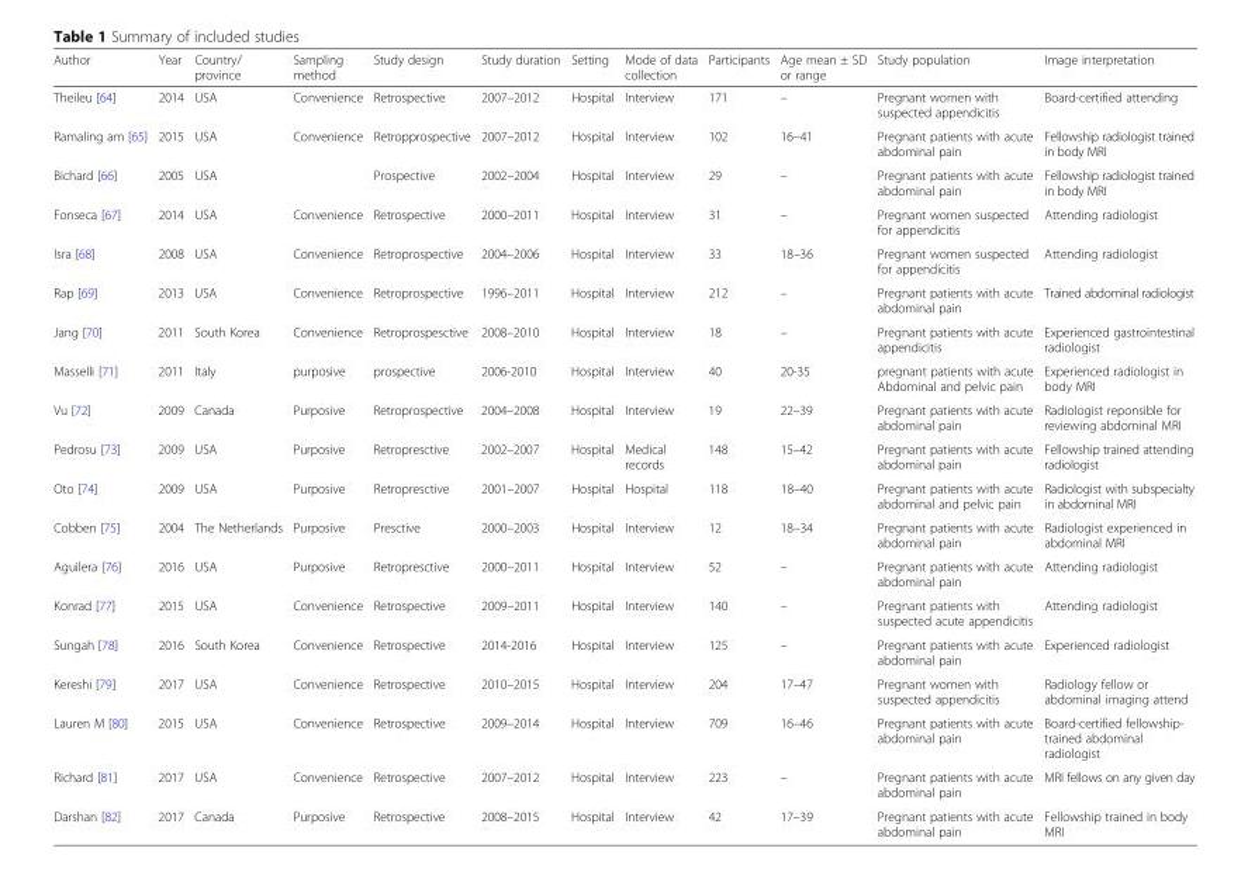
<table><thead><tr><td>Author</td><td>Year</td><td>Country/ province</td><td>Sampling method</td><td>Study design</td><td>Study duration</td><td>Setting</td><td>Mode of data collection</td><td>Participants</td><td>Age mean ± SD or range</td><td>Study population</td><td>Image interpretation</td></tr></thead><tbody><tr><td>Theileu [64]</td><td>2014</td><td>USA</td><td>Convenience</td><td>Retrospective</td><td>2007–2012</td><td>Hospital</td><td>Interview</td><td>171</td><td>–</td><td>Pregnant women with suspected appendicitis</td><td>Board-certified attending</td></tr><tr><td>Ramaling am [65]</td><td>2015</td><td>USA</td><td>Convenience</td><td>Retropprospective</td><td>2007–2012</td><td>Hospital</td><td>Interview</td><td>102</td><td>16–41</td><td>Pregnant patients with acute abdominal pain</td><td>Fellowship radiologist trained in body MRI</td></tr><tr><td>Bichard [66]</td><td>2005</td><td>USA</td><td></td><td>Prospective</td><td>2002–2004</td><td>Hospital</td><td>Interview</td><td>29</td><td>–</td><td>Pregnant patients with acute abdominal pain</td><td>Fellowship radiologist trained in body MRI</td></tr><tr><td>Fonseca [67]</td><td>2014</td><td>USA</td><td>Convenience</td><td>Retrospective</td><td>2000–2011</td><td>Hospital</td><td>Interview</td><td>31</td><td>–</td><td>Pregnant women suspected for appendicitis</td><td>Attending radiologist</td></tr><tr><td>Isra [68]</td><td>2008</td><td>USA</td><td>Convenience</td><td>Retroprospective</td><td>2004–2006</td><td>Hospital</td><td>Interview</td><td>33</td><td>18–36</td><td>Pregnant women suspected for appendicitis</td><td>Attending radiologist</td></tr><tr><td>Rap [69]</td><td>2013</td><td>USA</td><td>Convenience</td><td>Retroprospective</td><td>1996–2011</td><td>Hospital</td><td>Interview</td><td>212</td><td>–</td><td>Pregnant patients with acute abdominal pain</td><td>Trained abdominal radiologist</td></tr><tr><td>Jang [70]</td><td>2011</td><td>South Korea</td><td>Convenience</td><td>Retroprospesctive</td><td>2008–2010</td><td>Hospital</td><td>Interview</td><td>18</td><td>–</td><td>Pregnant patients with acute appendicitis</td><td>Experienced gastrointestinal radiologist</td></tr><tr><td>Masselli [71]</td><td>2011</td><td>Italy</td><td>purposive</td><td>prospective</td><td>2006-2010</td><td>Hospital</td><td>Interview</td><td>40</td><td>20-35</td><td>pregnant patients with acute Abdominal and pelvic pain</td><td>Experienced radiologist in body MRI</td></tr><tr><td>Vu [72]</td><td>2009</td><td>Canada</td><td>Purposive</td><td>Retroprospective</td><td>2004–2008</td><td>Hospital</td><td>Interview</td><td>19</td><td>22–39</td><td>Pregnant patients with acute abdominal pain</td><td>Radiologist reponsible for reviewing abdominal MRI</td></tr><tr><td>Pedrosu [73]</td><td>2009</td><td>USA</td><td>Purposive</td><td>Retropresctive</td><td>2002–2007</td><td>Hospital</td><td>Medical records</td><td>148</td><td>15–42</td><td>Pregnant patients with acute abdominal pain</td><td>Fellowship trained attending radiologist</td></tr><tr><td>Oto [74]</td><td>2009</td><td>USA</td><td>Purposive</td><td>Retropresctive</td><td>2001–2007</td><td>Hospital</td><td>Hospital</td><td>118</td><td>18–40</td><td>Pregnant patients with acute abdominal and pelvic pain</td><td>Radiologist with subspecialty in abdominal MRI</td></tr><tr><td>Cobben [75]</td><td>2004</td><td>The Netherlands</td><td>Purposive</td><td>Presctive</td><td>2000–2003</td><td>Hospital</td><td>Interview</td><td>12</td><td>18–34</td><td>Pregnant patients with acute abdominal pain</td><td>Radiologist experienced in abdominal MRI</td></tr><tr><td>Aguilera [76]</td><td>2016</td><td>USA</td><td>Purposive</td><td>Retropresctive</td><td>2000–2011</td><td>Hospital</td><td>Interview</td><td>52</td><td>–</td><td>Pregnant patients with acute abdominal pain</td><td>Attending radiologist</td></tr><tr><td>Konrad [77]</td><td>2015</td><td>USA</td><td>Convenience</td><td>Retrospective</td><td>2009–2011</td><td>Hospital</td><td>Interview</td><td>140</td><td>–</td><td>Pregnant patients with suspected acute appendicitis</td><td>Attending radiologist</td></tr><tr><td>Sungah [78]</td><td>2016</td><td>South Korea</td><td>Convenience</td><td>Retrospective</td><td>2014-2016</td><td>Hospital</td><td>Interview</td><td>125</td><td>–</td><td>Pregnant patients with acute abdominal pain</td><td>Experienced radiologist</td></tr><tr><td>Kereshi [79]</td><td>2017</td><td>USA</td><td>Convenience</td><td>Retrospective</td><td>2010–2015</td><td>Hospital</td><td>Interview</td><td>204</td><td>17–47</td><td>Pregnant women with suspected appendicitis</td><td>Radiology fellow or abdominal imaging attend</td></tr><tr><td>Lauren M [80]</td><td>2015</td><td>USA</td><td>Convenience</td><td>Retrospective</td><td>2009–2014</td><td>Hospital</td><td>Interview</td><td>709</td><td>16–46</td><td>Pregnant patients with acute abdominal pain</td><td>Board-certified fellowship- trained abdominal radiologist</td></tr><tr><td>Richard [81]</td><td>2017</td><td>USA</td><td>Convenience</td><td>Retrospective</td><td>2007–2012</td><td>Hospital</td><td>Interview</td><td>223</td><td>–</td><td>Pregnant patients with acute abdominal pain</td><td>MRI fellows on any given day</td></tr><tr><td>Darshan [82]</td><td>2017</td><td>Canada</td><td>Purposive</td><td>Retrospective</td><td>2008–2015</td><td>Hospital</td><td>Interview</td><td>42</td><td>17–39</td><td>Pregnant patients with acute abdominal pain</td><td>Fellowship trained in body MRI</td></tr></tbody></table>